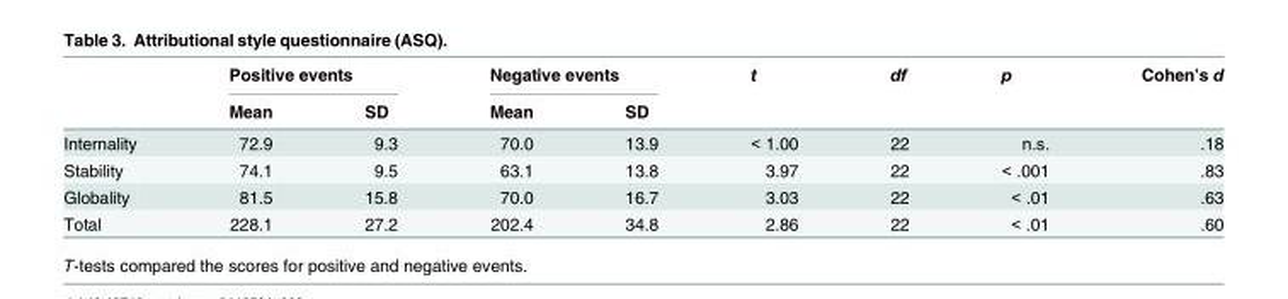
<table><thead><tr><td rowspan="2"></td><td colspan="2">Positive events</td><td colspan="2">Negative events</td><td rowspan="2">t</td><td rowspan="2">df</td><td rowspan="2">p</td><td rowspan="2">Cohen’s d</td></tr><tr><td>Mean</td><td>SD</td><td>Mean</td><td>SD</td></tr></thead><tbody><tr><td>Internality</td><td>72.9</td><td>9.3</td><td>70.0</td><td>13.9</td><td>&lt; 1.00</td><td>22</td><td>n.s.</td><td>.18</td></tr><tr><td>Stability</td><td>74.1</td><td>9.5</td><td>63.1</td><td>13.8</td><td>3.97</td><td>22</td><td>&lt; .001</td><td>.83</td></tr><tr><td>Globality</td><td>81.5</td><td>15.8</td><td>70.0</td><td>16.7</td><td>3.03</td><td>22</td><td>&lt; .01</td><td>.63</td></tr><tr><td>Total</td><td>228.1</td><td>27.2</td><td>202.4</td><td>34.8</td><td>2.86</td><td>22</td><td>&lt; .01</td><td>.60</td></tr></tbody></table>